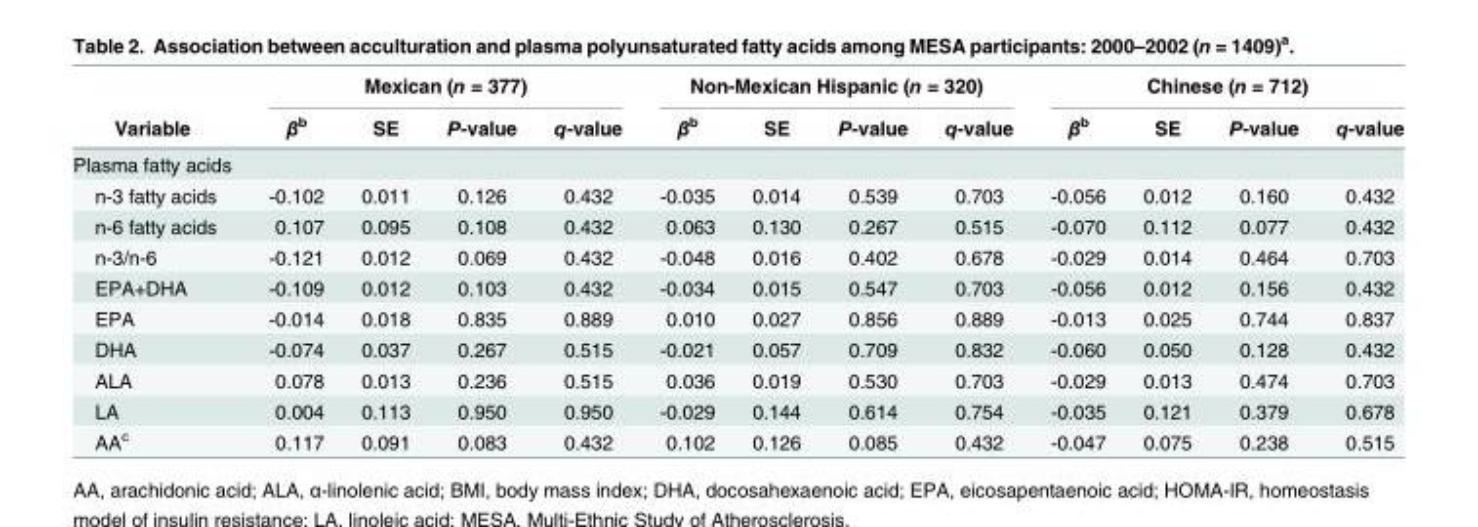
<table><thead><tr><td rowspan="2">Variable</td><td colspan="4">Mexican (n = 377)</td><td colspan="4">Non-Mexican Hispanic (n = 320)</td><td colspan="4">Chinese (n = 712)</td></tr><tr><td>β<sup>b</sup></td><td>SE</td><td>P-value</td><td>q-value</td><td>β<sup>b</sup></td><td>SE</td><td>P-value</td><td>q-value</td><td>β<sup>b</sup></td><td>SE</td><td>P-value</td><td>q-value</td></tr></thead><tbody><tr><td colspan="13">Plasma fatty acids</td></tr><tr><td>n-3 fatty acids</td><td>-0.102</td><td>0.011</td><td>0.126</td><td>0.432</td><td>-0.035</td><td>0.014</td><td>0.539</td><td>0.703</td><td>-0.056</td><td>0.012</td><td>0.160</td><td>0.432</td></tr><tr><td>n-6 fatty acids</td><td>0.107</td><td>0.095</td><td>0.108</td><td>0.432</td><td>0.063</td><td>0.130</td><td>0.267</td><td>0.515</td><td>-0.070</td><td>0.112</td><td>0.077</td><td>0.432</td></tr><tr><td>n-3/n-6</td><td>-0.121</td><td>0.012</td><td>0.069</td><td>0.432</td><td>-0.048</td><td>0.016</td><td>0.402</td><td>0.678</td><td>-0.029</td><td>0.014</td><td>0.464</td><td>0.703</td></tr><tr><td>EPA+DHA</td><td>-0.109</td><td>0.012</td><td>0.103</td><td>0.432</td><td>-0.034</td><td>0.015</td><td>0.547</td><td>0.703</td><td>-0.056</td><td>0.012</td><td>0.156</td><td>0.432</td></tr><tr><td>EPA</td><td>-0.014</td><td>0.018</td><td>0.835</td><td>0.889</td><td>0.010</td><td>0.027</td><td>0.856</td><td>0.889</td><td>-0.013</td><td>0.025</td><td>0.744</td><td>0.837</td></tr><tr><td>DHA</td><td>-0.074</td><td>0.037</td><td>0.267</td><td>0.515</td><td>-0.021</td><td>0.057</td><td>0.709</td><td>0.832</td><td>-0.060</td><td>0.050</td><td>0.128</td><td>0.432</td></tr><tr><td>ALA</td><td>0.078</td><td>0.013</td><td>0.236</td><td>0.515</td><td>0.036</td><td>0.019</td><td>0.530</td><td>0.703</td><td>-0.029</td><td>0.013</td><td>0.474</td><td>0.703</td></tr><tr><td>LA</td><td>0.004</td><td>0.113</td><td>0.950</td><td>0.950</td><td>-0.029</td><td>0.144</td><td>0.614</td><td>0.754</td><td>-0.035</td><td>0.121</td><td>0.379</td><td>0.678</td></tr><tr><td>AA<sup>c</sup></td><td>0.117</td><td>0.091</td><td>0.083</td><td>0.432</td><td>0.102</td><td>0.126</td><td>0.085</td><td>0.432</td><td>-0.047</td><td>0.075</td><td>0.238</td><td>0.515</td></tr></tbody></table>